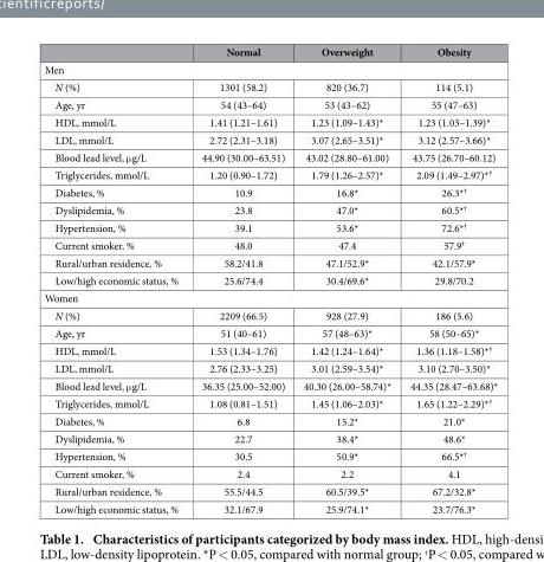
<table><thead><tr><td></td><td>Normal</td><td>Overweight</td><td>Obesity</td></tr></thead><tbody><tr><td colspan="4">Men</td></tr><tr><td>N (%)</td><td>1301 (58.2)</td><td>820 (36.7)</td><td>114 (5.1)</td></tr><tr><td>Age, yr</td><td>54 (43–64)</td><td>53 (43–62)</td><td>55 (47–63)</td></tr><tr><td>HDL, mmol/L</td><td>1.41 (1.21–1.61)</td><td>1.23 (1.09–1.43)*</td><td>1.23 (1.03–1.39)*</td></tr><tr><td>LDL, mmol/L</td><td>2.72 (2.31–3.18)</td><td>3.07 (2.65–3.51)*</td><td>3.12 (2.57–3.66)*</td></tr><tr><td>Blood lead level, μ g/L</td><td>44.90 (30.00–63.51)</td><td>43.02 (28.80–61.00)</td><td>43.75 (26.70–60.12)</td></tr><tr><td>Triglycerides, mmol/L</td><td>1.20 (0.90–1.72)</td><td>1.79 (1.26–2.57)*</td><td>2.09 (1.49–2.97)*<sup>†</sup></td></tr><tr><td>Diabetes, %</td><td>10.9</td><td>16.8*</td><td>26.3*<sup>†</sup></td></tr><tr><td>Dyslipidemia, %</td><td>23.8</td><td>47.0*</td><td>60.5*<sup>†</sup></td></tr><tr><td>Hypertension, %</td><td>39.1</td><td>53.6*</td><td>72.6*<sup>†</sup></td></tr><tr><td>Current smoker, %</td><td>48.0</td><td>47.4</td><td>57.9<sup>†</sup></td></tr><tr><td>Rural/urban residence, %</td><td>58.2/41.8</td><td>47.1/52.9*</td><td>42.1/57.9*</td></tr><tr><td>Low/high economic status, %</td><td>25.6/74.4</td><td>30.4/69.6*</td><td>29.8/70.2</td></tr><tr><td colspan="4">Women</td></tr><tr><td>N (%)</td><td>2209 (66.5)</td><td>928 (27.9)</td><td>186 (5.6)</td></tr><tr><td>Age, yr</td><td>51 (40–61)</td><td>57 (48–63)*</td><td>58 (50–65)*</td></tr><tr><td>HDL, mmol/L</td><td>1.53 (1.34–1.76)</td><td>1.42 (1.24–1.64)*</td><td>1.36 (1.18–1.58)*<sup>†</sup></td></tr><tr><td>LDL, mmol/L</td><td>2.76 (2.33–3.25)</td><td>3.01 (2.59–3.54)*</td><td>3.10 (2.70–3.50)*</td></tr><tr><td>Blood lead level, μ g/L</td><td>36.35 (25.00–52.00)</td><td>40.30 (26.00–58.74)*</td><td>44.35 (28.47–63.68)*</td></tr><tr><td>Triglycerides, mmol/L</td><td>1.08 (0.81–1.51)</td><td>1.45 (1.06–2.03)*</td><td>1.65 (1.22–2.29)*<sup>†</sup></td></tr><tr><td>Diabetes, %</td><td>6.8</td><td>15.2*</td><td>21.0*</td></tr><tr><td>Dyslipidemia, %</td><td>22.7</td><td>38.4*</td><td>48.6*</td></tr><tr><td>Hypertension, %</td><td>30.5</td><td>50.9*</td><td>66.5*<sup>†</sup></td></tr><tr><td>Current smoker, %</td><td>2.4</td><td>2.2</td><td>4.1</td></tr><tr><td>Rural/urban residence, %</td><td>55.5/44.5</td><td>60.5/39.5*</td><td>67.2/32.8*</td></tr><tr><td>Low/high economic status, %</td><td>32.1/67.9</td><td>25.9/74.1*</td><td>23.7/76.3*</td></tr></tbody></table>